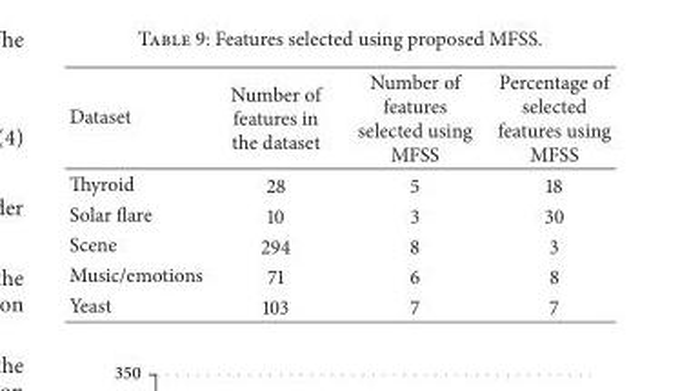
<table><thead><tr><td>Dataset</td><td>Number of features in the dataset</td><td>Number of features selected using MFSS</td><td>Percentage of selected features using MFSS</td></tr></thead><tbody><tr><td>Thyroid</td><td>28</td><td>5</td><td>18</td></tr><tr><td>Solar flare</td><td>10</td><td>3</td><td>30</td></tr><tr><td>Scene</td><td>294</td><td>8</td><td>3</td></tr><tr><td>Music/emotions</td><td>71</td><td>6</td><td>8</td></tr><tr><td>Yeast</td><td>103</td><td>7</td><td>7</td></tr></tbody></table>